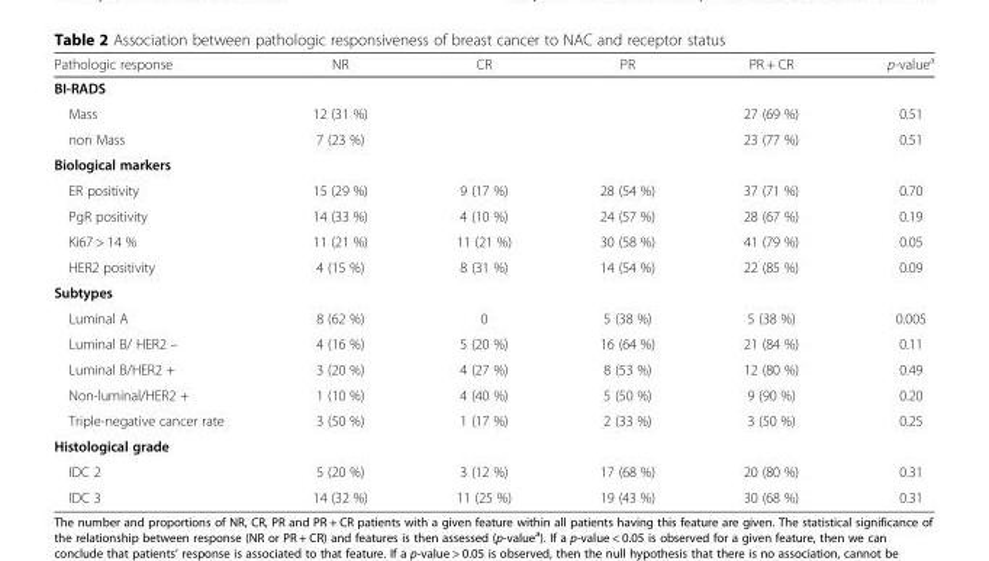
<table><thead><tr><td>Pathologic response</td><td>NR</td><td>CR</td><td>PR</td><td>PR + CR</td><td>p-value<sup>a</sup></td></tr></thead><tbody><tr><td colspan="6">BI-RADS</td></tr><tr><td>Mass</td><td>12 (31 %)</td><td></td><td></td><td>27 (69 %)</td><td>0.51</td></tr><tr><td>non Mass</td><td>7 (23 %)</td><td></td><td></td><td>23 (77 %)</td><td>0.51</td></tr><tr><td colspan="6">Biological markers</td></tr><tr><td>ER positivity</td><td>15 (29 %)</td><td>9 (17 %)</td><td>28 (54 %)</td><td>37 (71 %)</td><td>0.70</td></tr><tr><td>PgR positivity</td><td>14 (33 %)</td><td>4 (10 %)</td><td>24 (57 %)</td><td>28 (67 %)</td><td>0.19</td></tr><tr><td>Ki67 &gt; 14 %</td><td>11 (21 %)</td><td>11 (21 %)</td><td>30 (58 %)</td><td>41 (79 %)</td><td>0.05</td></tr><tr><td>HER2 positivity</td><td>4 (15 %)</td><td>8 (31 %)</td><td>14 (54 %)</td><td>22 (85 %)</td><td>0.09</td></tr><tr><td colspan="6">Subtypes</td></tr><tr><td>Luminal A</td><td>8 (62 %)</td><td>0</td><td>5 (38 %)</td><td>5 (38 %)</td><td>0.005</td></tr><tr><td>Luminal B/ HER2 –</td><td>4 (16 %)</td><td>5 (20 %)</td><td>16 (64 %)</td><td>21 (84 %)</td><td>0.11</td></tr><tr><td>Luminal B/HER2 +</td><td>3 (20 %)</td><td>4 (27 %)</td><td>8 (53 %)</td><td>12 (80 %)</td><td>0.49</td></tr><tr><td>Non-luminal/HER2 +</td><td>1 (10 %)</td><td>4 (40 %)</td><td>5 (50 %)</td><td>9 (90 %)</td><td>0.20</td></tr><tr><td>Triple-negative cancer rate</td><td>3 (50 %)</td><td>1 (17 %)</td><td>2 (33 %)</td><td>3 (50 %)</td><td>0.25</td></tr><tr><td colspan="6">Histological grade</td></tr><tr><td>IDC 2</td><td>5 (20 %)</td><td>3 (12 %)</td><td>17 (68 %)</td><td>20 (80 %)</td><td>0.31</td></tr><tr><td>IDC 3</td><td>14 (32 %)</td><td>11 (25 %)</td><td>19 (43 %)</td><td>30 (68 %)</td><td>0.31</td></tr></tbody></table>